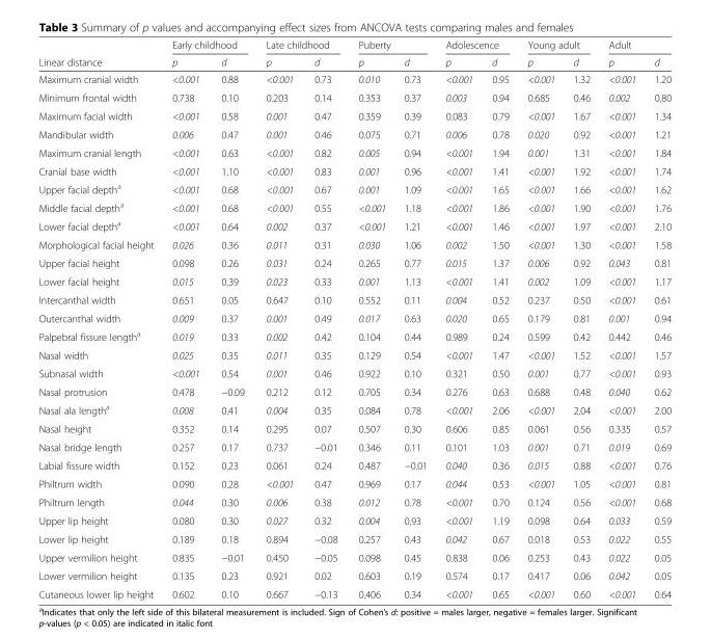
<table><thead><tr><td rowspan="2">Linear distance</td><td colspan="2">Early childhood</td><td colspan="2">Late childhood</td><td colspan="2">Puberty</td><td colspan="2">Adolescence</td><td colspan="2">Young adult</td><td colspan="2">Adult</td></tr><tr><td>p</td><td>d</td><td>p</td><td>d</td><td>p</td><td>d</td><td>p</td><td>d</td><td>p</td><td>d</td><td>p</td><td>d</td></tr></thead><tbody><tr><td>Maximum cranial width</td><td>&lt;0.001</td><td>0.88</td><td>&lt;0.001</td><td>0.73</td><td>0.010</td><td>0.73</td><td>&lt;0.001</td><td>0.95</td><td>&lt;0.001</td><td>1.32</td><td>&lt;0.001</td><td>1.20</td></tr><tr><td>Minimum frontal width</td><td>0.738</td><td>0.10</td><td>0.203</td><td>0.14</td><td>0.353</td><td>0.37</td><td>0.003</td><td>0.94</td><td>0.685</td><td>0.46</td><td>0.002</td><td>0.80</td></tr><tr><td>Maximum facial width</td><td>&lt;0.001</td><td>0.58</td><td>0.001</td><td>0.47</td><td>0.359</td><td>0.39</td><td>0.083</td><td>0.79</td><td>&lt;0.001</td><td>1.67</td><td>&lt;0.001</td><td>1.34</td></tr><tr><td>Mandibular width</td><td>0.006</td><td>0.47</td><td>0.001</td><td>0.46</td><td>0.075</td><td>0.71</td><td>0.006</td><td>0.78</td><td>0.020</td><td>0.92</td><td>&lt;0.001</td><td>1.21</td></tr><tr><td>Maximum cranial length</td><td>&lt;0.001</td><td>0.63</td><td>&lt;0.001</td><td>0.82</td><td>0.005</td><td>0.94</td><td>&lt;0.001</td><td>1.94</td><td>0.001</td><td>1.31</td><td>&lt;0.001</td><td>1.84</td></tr><tr><td>Cranial base width</td><td>&lt;0.001</td><td>1.10</td><td>&lt;0.001</td><td>0.83</td><td>0.001</td><td>0.96</td><td>&lt;0.001</td><td>1.41</td><td>&lt;0.001</td><td>1.92</td><td>&lt;0.001</td><td>1.74</td></tr><tr><td>Upper facial depth<sup>a</sup></td><td>&lt;0.001</td><td>0.68</td><td>&lt;0.001</td><td>0.67</td><td>0.001</td><td>1.09</td><td>&lt;0.001</td><td>1.65</td><td>&lt;0.001</td><td>1.66</td><td>&lt;0.001</td><td>1.62</td></tr><tr><td>Middle facial depth<sup>a</sup></td><td>&lt;0.001</td><td>0.68</td><td>&lt;0.001</td><td>0.55</td><td>&lt;0.001</td><td>1.18</td><td>&lt;0.001</td><td>1.86</td><td>&lt;0.001</td><td>1.90</td><td>&lt;0.001</td><td>1.76</td></tr><tr><td>Lower facial depth<sup>a</sup></td><td>&lt;0.001</td><td>0.64</td><td>0.002</td><td>0.37</td><td>&lt;0.001</td><td>1.21</td><td>&lt;0.001</td><td>1.46</td><td>&lt;0.001</td><td>1.97</td><td>&lt;0.001</td><td>2.10</td></tr><tr><td>Morphological facial height</td><td>0.026</td><td>0.36</td><td>0.011</td><td>0.31</td><td>0.030</td><td>1.06</td><td>0.002</td><td>1.50</td><td>&lt;0.001</td><td>1.30</td><td>&lt;0.001</td><td>1.58</td></tr><tr><td>Upper facial height</td><td>0.098</td><td>0.26</td><td>0.031</td><td>0.24</td><td>0.265</td><td>0.77</td><td>0.015</td><td>1.37</td><td>0.006</td><td>0.92</td><td>0.043</td><td>0.81</td></tr><tr><td>Lower facial height</td><td>0.015</td><td>0.39</td><td>0.023</td><td>0.33</td><td>0.001</td><td>1.13</td><td>&lt;0.001</td><td>1.41</td><td>0.002</td><td>1.09</td><td>&lt;0.001</td><td>1.17</td></tr><tr><td>Intercanthal width</td><td>0.651</td><td>0.05</td><td>0.647</td><td>0.10</td><td>0.552</td><td>0.11</td><td>0.004</td><td>0.52</td><td>0.237</td><td>0.50</td><td>&lt;0.001</td><td>0.61</td></tr><tr><td>Outercanthal width</td><td>0.009</td><td>0.37</td><td>0.001</td><td>0.49</td><td>0.017</td><td>0.63</td><td>0.020</td><td>0.65</td><td>0.179</td><td>0.81</td><td>0.001</td><td>0.94</td></tr><tr><td>Palpebral fissure length<sup>a</sup></td><td>0.019</td><td>0.33</td><td>0.002</td><td>0.42</td><td>0.104</td><td>0.44</td><td>0.989</td><td>0.24</td><td>0.599</td><td>0.42</td><td>0.442</td><td>0.46</td></tr><tr><td>Nasal width</td><td>0.025</td><td>0.35</td><td>0.011</td><td>0.35</td><td>0.129</td><td>0.54</td><td>&lt;0.001</td><td>1.47</td><td>&lt;0.001</td><td>1.52</td><td>&lt;0.001</td><td>1.57</td></tr><tr><td>Subnasal width</td><td>&lt;0.001</td><td>0.54</td><td>0.001</td><td>0.46</td><td>0.922</td><td>0.10</td><td>0.321</td><td>0.50</td><td>0.001</td><td>0.77</td><td>&lt;0.001</td><td>0.93</td></tr><tr><td>Nasal protrusion</td><td>0.478</td><td>−0.09</td><td>0.212</td><td>0.12</td><td>0.705</td><td>0.34</td><td>0.276</td><td>0.63</td><td>0.688</td><td>0.48</td><td>0.040</td><td>0.62</td></tr><tr><td>Nasal ala length<sup>a</sup></td><td>0.008</td><td>0.41</td><td>0.004</td><td>0.35</td><td>0.084</td><td>0.78</td><td>&lt;0.001</td><td>2.06</td><td>&lt;0.001</td><td>2.04</td><td>&lt;0.001</td><td>2.00</td></tr><tr><td>Nasal height</td><td>0.352</td><td>0.14</td><td>0.295</td><td>0.07</td><td>0.507</td><td>0.30</td><td>0.606</td><td>0.85</td><td>0.061</td><td>0.56</td><td>0.335</td><td>0.57</td></tr><tr><td>Nasal bridge length</td><td>0.257</td><td>0.17</td><td>0.737</td><td>−0.01</td><td>0.346</td><td>0.11</td><td>0.101</td><td>1.03</td><td>0.001</td><td>0.71</td><td>0.019</td><td>0.69</td></tr><tr><td>Labial fissure width</td><td>0.152</td><td>0.23</td><td>0.061</td><td>0.24</td><td>0.487</td><td>−0.01</td><td>0.040</td><td>0.36</td><td>0.015</td><td>0.88</td><td>&lt;0.001</td><td>0.76</td></tr><tr><td>Philtrum width</td><td>0.090</td><td>0.28</td><td>&lt;0.001</td><td>0.47</td><td>0.969</td><td>0.17</td><td>0.044</td><td>0.53</td><td>&lt;0.001</td><td>1.05</td><td>&lt;0.001</td><td>0.81</td></tr><tr><td>Philtrum length</td><td>0.044</td><td>0.30</td><td>0.006</td><td>0.38</td><td>0.012</td><td>0.78</td><td>&lt;0.001</td><td>0.70</td><td>0.124</td><td>0.56</td><td>&lt;0.001</td><td>0.68</td></tr><tr><td>Upper lip height</td><td>0.080</td><td>0.30</td><td>0.027</td><td>0.32</td><td>0.004</td><td>0.93</td><td>&lt;0.001</td><td>1.19</td><td>0.098</td><td>0.64</td><td>0.033</td><td>0.59</td></tr><tr><td>Lower lip height</td><td>0.189</td><td>0.18</td><td>0.894</td><td>−0.08</td><td>0.257</td><td>0.43</td><td>0.042</td><td>0.67</td><td>0.018</td><td>0.53</td><td>0.022</td><td>0.55</td></tr><tr><td>Upper vermilion height</td><td>0.835</td><td>−0.01</td><td>0.450</td><td>−0.05</td><td>0.098</td><td>0.45</td><td>0.838</td><td>0.06</td><td>0.253</td><td>0.43</td><td>0.022</td><td>0.05</td></tr><tr><td>Lower vermilion height</td><td>0.135</td><td>0.23</td><td>0.921</td><td>0.02</td><td>0.603</td><td>0.19</td><td>0.574</td><td>0.17</td><td>0.417</td><td>0.06</td><td>0.042</td><td>0.05</td></tr><tr><td>Cutaneous lower lip height</td><td>0.602</td><td>0.10</td><td>0.667</td><td>−0.13</td><td>0.406</td><td>0.34</td><td>&lt;0.001</td><td>0.65</td><td>&lt;0.001</td><td>0.60</td><td>&lt;0.001</td><td>0.64</td></tr></tbody></table>